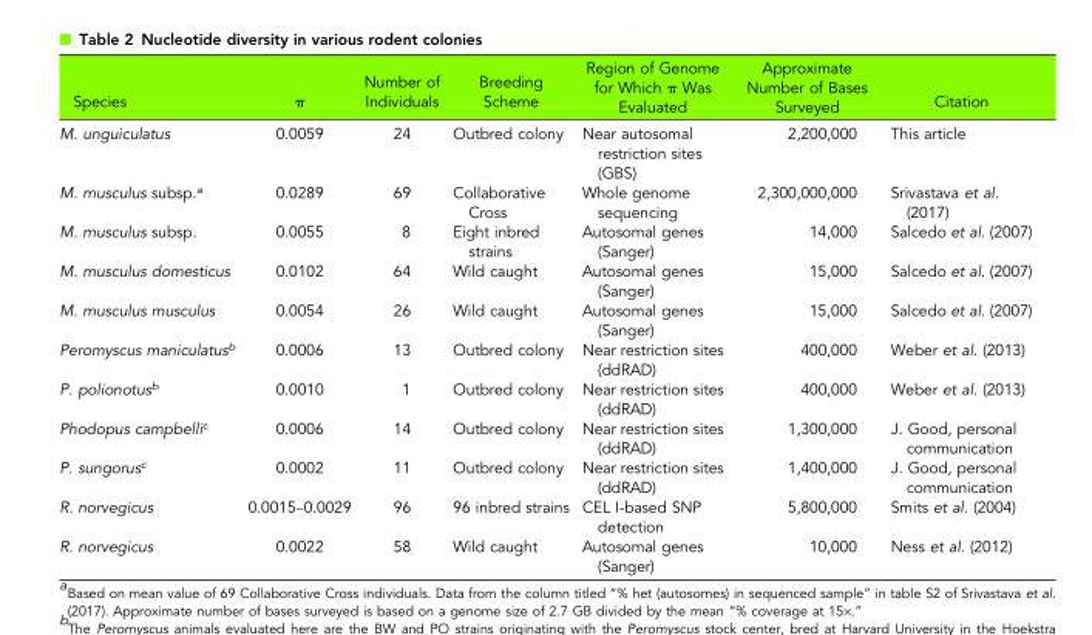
<table><thead><tr><td>Species</td><td>π</td><td>Number of Individuals</td><td>Breeding Scheme</td><td>Region of Genome for Which π Was Evaluated</td><td>Approximate Number of Bases Surveyed</td><td>Citation</td></tr></thead><tbody><tr><td>M. unguiculatus</td><td>0.0059</td><td>24</td><td>Outbred colony</td><td>Near autosomal restriction sites (GBS)</td><td>2,200,000</td><td>This article</td></tr><tr><td>M. musculus subsp.<sup>a</sup></td><td>0.0289</td><td>69</td><td>Collaborative Cross</td><td>Whole genome sequencing</td><td>2,300,000,000</td><td>Srivastava et al. (2017)</td></tr><tr><td>M. musculus subsp.</td><td>0.0055</td><td>8</td><td>Eight inbred strains</td><td>Autosomal genes (Sanger)</td><td>14,000</td><td>Salcedo et al. (2007)</td></tr><tr><td>M. musculus domesticus</td><td>0.0102</td><td>64</td><td>Wild caught</td><td>Autosomal genes (Sanger)</td><td>15,000</td><td>Salcedo et al. (2007)</td></tr><tr><td>M. musculus musculus</td><td>0.0054</td><td>26</td><td>Wild caught</td><td>Autosomal genes (Sanger)</td><td>15,000</td><td>Salcedo et al. (2007)</td></tr><tr><td>Peromyscus maniculatus<sup>b</sup></td><td>0.0006</td><td>13</td><td>Outbred colony</td><td>Near restriction sites (ddRAD)</td><td>400,000</td><td>Weber et al. (2013)</td></tr><tr><td>P. polionotus<sup>b</sup></td><td>0.0010</td><td>1</td><td>Outbred colony</td><td>Near restriction sites (ddRAD)</td><td>400,000</td><td>Weber et al. (2013)</td></tr><tr><td>Phodopus campbelli<sup>c</sup></td><td>0.0006</td><td>14</td><td>Outbred colony</td><td>Near restriction sites (ddRAD)</td><td>1,300,000</td><td>J. Good, personal communication</td></tr><tr><td>P. sungorus<sup>c</sup></td><td>0.0002</td><td>11</td><td>Outbred colony</td><td>Near restriction sites (ddRAD)</td><td>1,400,000</td><td>J. Good, personal communication</td></tr><tr><td>R. norvegicus</td><td>0.0015–0.0029</td><td>96</td><td>96 inbred strains</td><td>CEL I-based SNP detection</td><td>5,800,000</td><td>Smits et al. (2004)</td></tr><tr><td>R. norvegicus</td><td>0.0022</td><td>58</td><td>Wild caught</td><td>Autosomal genes (Sanger)</td><td>10,000</td><td>Ness et al. (2012)</td></tr></tbody></table>